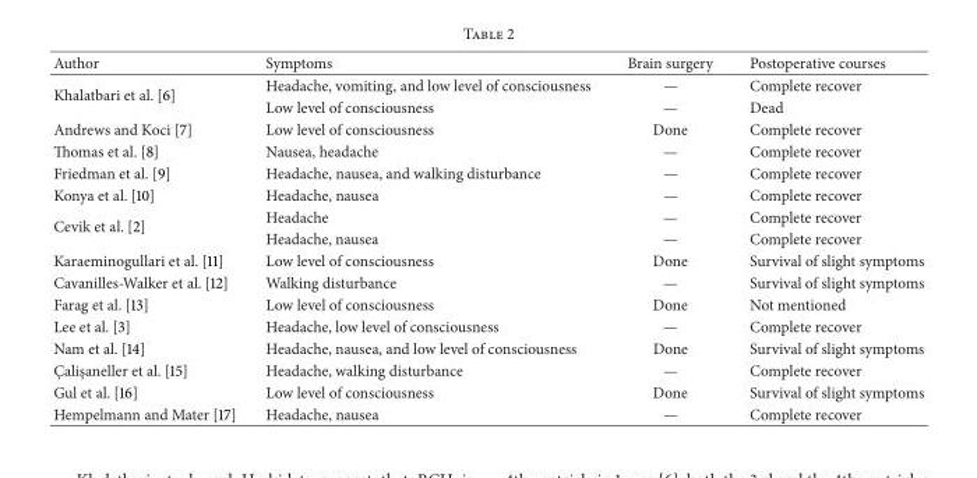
<table><thead><tr><td>Author</td><td>Symptoms</td><td>Brain surgery</td><td>Postoperative courses</td></tr></thead><tbody><tr><td rowspan="2">Khalatbari et al. [6]</td><td>Headache, vomiting, and low level of consciousness</td><td>—</td><td>Complete recover</td></tr><tr><td>Low level of consciousness</td><td>—</td><td>Dead</td></tr><tr><td>Andrews and Koci [7]</td><td>Low level of consciousness</td><td>Done</td><td>Complete recover</td></tr><tr><td>Thomas et al. [8]</td><td>Nausea, headache</td><td>—</td><td>Complete recover</td></tr><tr><td>Friedman et al. [9]</td><td>Headache, nausea, and walking disturbance</td><td>—</td><td>Complete recover</td></tr><tr><td>Konya et al. [10]</td><td>Headache, nausea</td><td>—</td><td>Complete recover</td></tr><tr><td rowspan="2">Cevik et al. [2]</td><td>Headache</td><td>—</td><td>Complete recover</td></tr><tr><td>Headache, nausea</td><td>—</td><td>Complete recover</td></tr><tr><td>Karaeminogullari et al. [11]</td><td>Low level of consciousness</td><td>Done</td><td>Survival of slight symptoms</td></tr><tr><td>Cavanilles-Walker et al. [12]</td><td>Walking disturbance</td><td>—</td><td>Survival of slight symptoms</td></tr><tr><td>Farag et al. [13]</td><td>Low level of consciousness</td><td>Done</td><td>Not mentioned</td></tr><tr><td>Lee et al. [3]</td><td>Headache, low level of consciousness</td><td>—</td><td>Complete recover</td></tr><tr><td>Nam et al. [14]</td><td>Headache, nausea, and low level of consciousness</td><td>Done</td><td>Survival of slight symptoms</td></tr><tr><td>C¸alis¸aneller et al. [15]</td><td>Headache, walking disturbance</td><td>—</td><td>Complete recover</td></tr><tr><td>Gul et al. [16]</td><td>Low level of consciousness</td><td>Done</td><td>Survival of slight symptoms</td></tr><tr><td>Hempelmann and Mater [17]</td><td>Headache, nausea</td><td>—</td><td>Complete recover</td></tr></tbody></table>